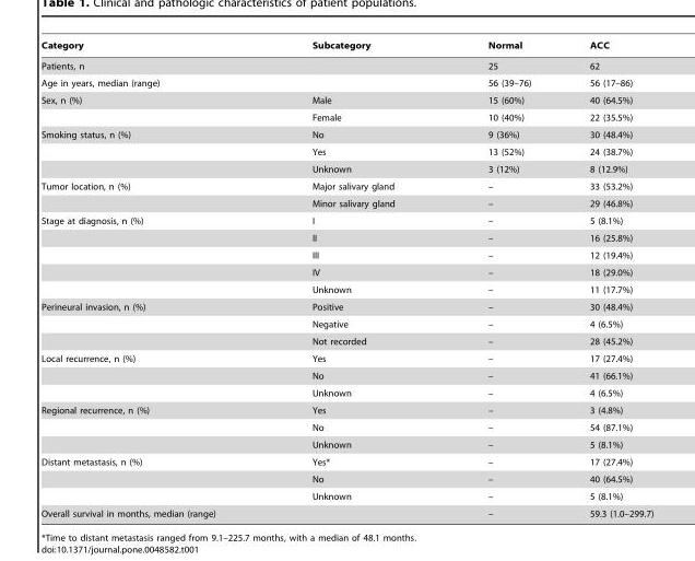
<table><thead><tr><td>Category</td><td>Subcategory</td><td>Normal</td><td>ACC</td></tr></thead><tbody><tr><td>Patients, n</td><td></td><td>25</td><td>62</td></tr><tr><td>Age in years, median (range)</td><td></td><td>56 (39–76)</td><td>56 (17–86)</td></tr><tr><td rowspan="2">Sex, n (%)</td><td>Male</td><td>15 (60%)</td><td>40 (64.5%)</td></tr><tr><td>Female</td><td>10 (40%)</td><td>22 (35.5%)</td></tr><tr><td rowspan="3">Smoking status, n (%)</td><td>No</td><td>9 (36%)</td><td>30 (48.4%)</td></tr><tr><td>Yes</td><td>13 (52%)</td><td>24 (38.7%)</td></tr><tr><td>Unknown</td><td>3 (12%)</td><td>8 (12.9%)</td></tr><tr><td rowspan="2">Tumor location, n (%)</td><td>Major salivary gland</td><td>–</td><td>33 (53.2%)</td></tr><tr><td>Minor salivary gland</td><td>–</td><td>29 (46.8%)</td></tr><tr><td rowspan="5">Stage at diagnosis, n (%)</td><td>I</td><td>–</td><td>5 (8.1%)</td></tr><tr><td>II</td><td>–</td><td>16 (25.8%)</td></tr><tr><td>III</td><td>–</td><td>12 (19.4%)</td></tr><tr><td>IV</td><td>–</td><td>18 (29.0%)</td></tr><tr><td>Unknown</td><td>–</td><td>11 (17.7%)</td></tr><tr><td rowspan="3">Perineural invasion, n (%)</td><td>Positive</td><td>–</td><td>30 (48.4%)</td></tr><tr><td>Negative</td><td>–</td><td>4 (6.5%)</td></tr><tr><td>Not recorded</td><td>–</td><td>28 (45.2%)</td></tr><tr><td rowspan="3">Local recurrence, n (%)</td><td>Yes</td><td>–</td><td>17 (27.4%)</td></tr><tr><td>No</td><td>–</td><td>41 (66.1%)</td></tr><tr><td>Unknown</td><td>–</td><td>4 (6.5%)</td></tr><tr><td rowspan="3">Regional recurrence, n (%)</td><td>Yes</td><td>–</td><td>3 (4.8%)</td></tr><tr><td>No</td><td>–</td><td>54 (87.1%)</td></tr><tr><td>Unknown</td><td>–</td><td>5 (8.1%)</td></tr><tr><td rowspan="3">Distant metastasis, n (%)</td><td>Yes*</td><td>–</td><td>17 (27.4%)</td></tr><tr><td>No</td><td>–</td><td>40 (64.5%)</td></tr><tr><td>Unknown</td><td>–</td><td>5 (8.1%)</td></tr><tr><td>Overall survival in months, median (range)</td><td></td><td>–</td><td>59.3 (1.0–299.7)</td></tr></tbody></table>